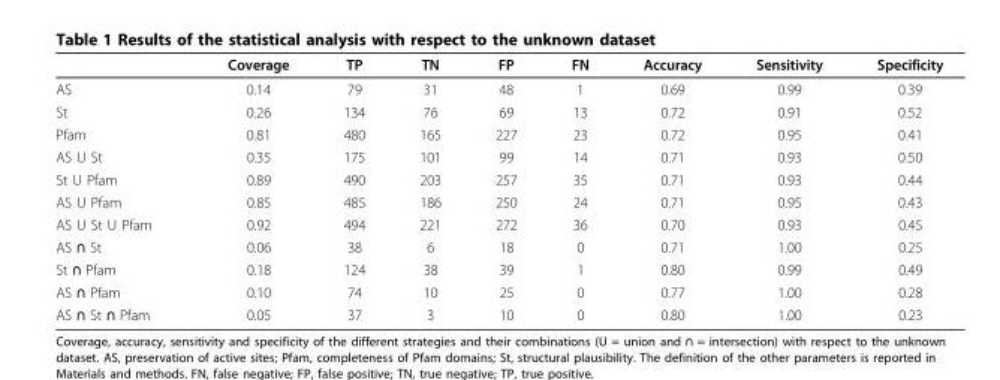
<table><thead><tr><td></td><td>Coverage</td><td>TP</td><td>TN</td><td>FP</td><td>FN</td><td>Accuracy</td><td>Sensitivity</td><td>Specificity</td></tr></thead><tbody><tr><td>AS</td><td>0.14</td><td>79</td><td>31</td><td>48</td><td>1</td><td>0.69</td><td>0.99</td><td>0.39</td></tr><tr><td>St</td><td>0.26</td><td>134</td><td>76</td><td>69</td><td>13</td><td>0.72</td><td>0.91</td><td>0.52</td></tr><tr><td>Pfam</td><td>0.81</td><td>480</td><td>165</td><td>227</td><td>23</td><td>0.72</td><td>0.95</td><td>0.41</td></tr><tr><td>AS U St</td><td>0.35</td><td>175</td><td>101</td><td>99</td><td>14</td><td>0.71</td><td>0.93</td><td>0.50</td></tr><tr><td>St U Pfam</td><td>0.89</td><td>490</td><td>203</td><td>257</td><td>35</td><td>0.71</td><td>0.93</td><td>0.44</td></tr><tr><td>AS U Pfam</td><td>0.85</td><td>485</td><td>186</td><td>250</td><td>24</td><td>0.71</td><td>0.95</td><td>0.43</td></tr><tr><td>AS U St U Pfam</td><td>0.92</td><td>494</td><td>221</td><td>272</td><td>36</td><td>0.70</td><td>0.93</td><td>0.45</td></tr><tr><td>AS ∩ St</td><td>0.06</td><td>38</td><td>6</td><td>18</td><td>0</td><td>0.71</td><td>1.00</td><td>0.25</td></tr><tr><td>St ∩ Pfam</td><td>0.18</td><td>124</td><td>38</td><td>39</td><td>1</td><td>0.80</td><td>0.99</td><td>0.49</td></tr><tr><td>AS ∩ Pfam</td><td>0.10</td><td>74</td><td>10</td><td>25</td><td>0</td><td>0.77</td><td>1.00</td><td>0.28</td></tr><tr><td>AS ∩ St ∩ Pfam</td><td>0.05</td><td>37</td><td>3</td><td>10</td><td>0</td><td>0.80</td><td>1.00</td><td>0.23</td></tr></tbody></table>